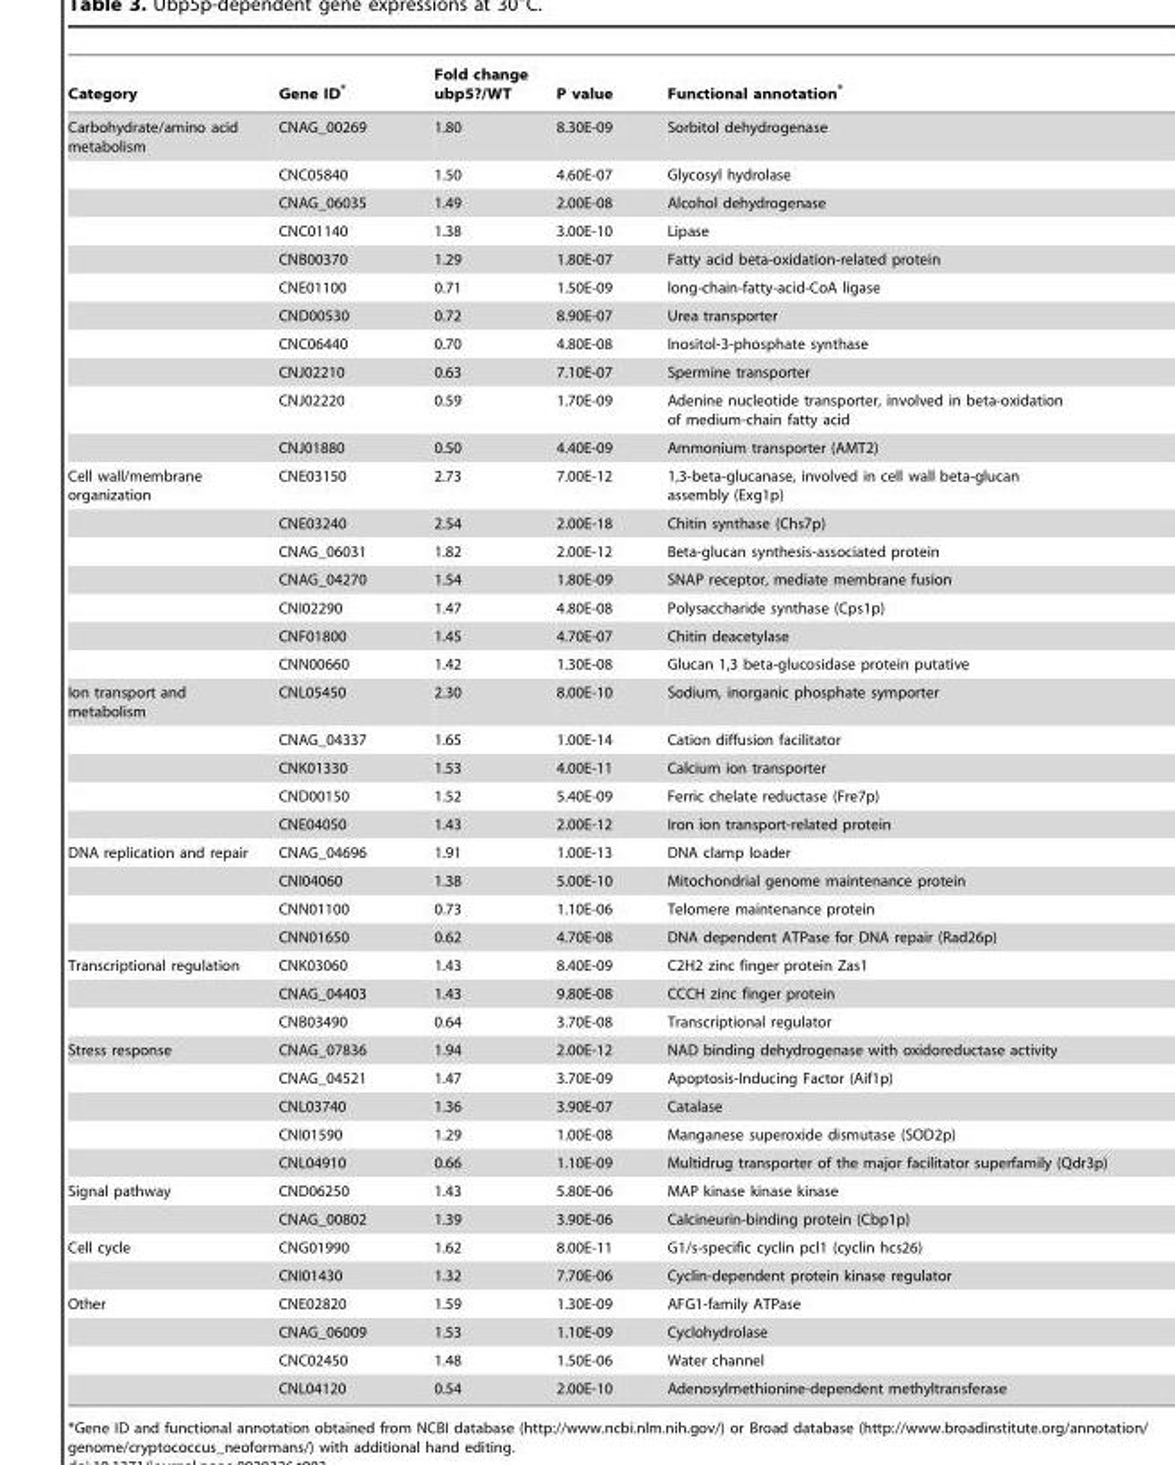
<table><thead><tr><td>Category</td><td>Gene ID*</td><td>Fold change ubp5?/WT</td><td>P value</td><td>Functional annotation*</td></tr></thead><tbody><tr><td rowspan="11">Carbohydrate/amino acid metabolism</td><td>CNAG_00269</td><td>1.80</td><td>8.30E-09</td><td>Sorbitol dehydrogenase</td></tr><tr><td>CNC05840</td><td>1.50</td><td>4.60E-07</td><td>Glycosyl hydrolase</td></tr><tr><td>CNAG_06035</td><td>1.49</td><td>2.00E-08</td><td>Alcohol dehydrogenase</td></tr><tr><td>CNC01140</td><td>1.38</td><td>3.00E-10</td><td>Lipase</td></tr><tr><td>CNB00370</td><td>1.29</td><td>1.80E-07</td><td>Fatty acid beta-oxidation-related protein</td></tr><tr><td>CNE01100</td><td>0.71</td><td>1.50E-09</td><td>long-chain-fatty-acid-CoA ligase</td></tr><tr><td>CND00530</td><td>0.72</td><td>8.90E-07</td><td>Urea transporter</td></tr><tr><td>CNC06440</td><td>0.70</td><td>4.80E-08</td><td>Inositol-3-phosphate synthase</td></tr><tr><td>CNJ02210</td><td>0.63</td><td>7.10E-07</td><td>Spermine transporter</td></tr><tr><td>CNJ02220</td><td>0.59</td><td>1.70E-09</td><td>Adenine nucleotide transporter, involved in beta-oxidation of medium-chain fatty acid</td></tr><tr><td>CNJ01880</td><td>0.50</td><td>4.40E-09</td><td>Ammonium transporter (AMT2)</td></tr><tr><td rowspan="7">Cell wall/membrane organization</td><td>CNE03150</td><td>2.73</td><td>7.00E-12</td><td>1,3-beta-glucanase, involved in cell wall beta-glucan assembly (Exg1p)</td></tr><tr><td>CNE03240</td><td>2.54</td><td>2.00E-18</td><td>Chitin synthase (Chs7p)</td></tr><tr><td>CNAG_06031</td><td>1.82</td><td>2.00E-12</td><td>Beta-glucan synthesis-associated protein</td></tr><tr><td>CNAG_04270</td><td>1.54</td><td>1.80E-09</td><td>SNAP receptor, mediate membrane fusion</td></tr><tr><td>CNI02290</td><td>1.47</td><td>4.80E-08</td><td>Polysaccharide synthase (Cps1p)</td></tr><tr><td>CNF01800</td><td>1.45</td><td>4.70E-07</td><td>Chitin deacetylase</td></tr><tr><td>CNN00660</td><td>1.42</td><td>1.30E-08</td><td>Glucan 1,3 beta-glucosidase protein putative</td></tr><tr><td rowspan="5">Ion transport and metabolism</td><td>CNL05450</td><td>2.30</td><td>8.00E-10</td><td>Sodium, inorganic phosphate symporter</td></tr><tr><td>CNAG_04337</td><td>1.65</td><td>1.00E-14</td><td>Cation diffusion facilitator</td></tr><tr><td>CNK01330</td><td>1.53</td><td>4.00E-11</td><td>Calcium ion transporter</td></tr><tr><td>CND00150</td><td>1.52</td><td>5.40E-09</td><td>Ferric chelate reductase (Fre7p)</td></tr><tr><td>CNE04050</td><td>1.43</td><td>2.00E-12</td><td>Iron ion transport-related protein</td></tr><tr><td rowspan="4">DNA replication and repair</td><td>CNAG_04696</td><td>1.91</td><td>1.00E-13</td><td>DNA clamp loader</td></tr><tr><td>CNI04060</td><td>1.38</td><td>5.00E-10</td><td>Mitochondrial genome maintenance protein</td></tr><tr><td>CNN01100</td><td>0.73</td><td>1.10E-06</td><td>Telomere maintenance protein</td></tr><tr><td>CNN01650</td><td>0.62</td><td>4.70E-08</td><td>DNA dependent ATPase for DNA repair (Rad26p)</td></tr><tr><td rowspan="3">Transcriptional regulation</td><td>CNK03060</td><td>1.43</td><td>8.40E-09</td><td>C2H2 zinc finger protein Zas1</td></tr><tr><td>CNAG_04403</td><td>1.43</td><td>9.80E-08</td><td>CCCH zinc finger protein</td></tr><tr><td>CNB03490</td><td>0.64</td><td>3.70E-08</td><td>Transcriptional regulator</td></tr><tr><td rowspan="5">Stress response</td><td>CNAG_07836</td><td>1.94</td><td>2.00E-12</td><td>NAD binding dehydrogenase with oxidoreductase activity</td></tr><tr><td>CNAG_04521</td><td>1.47</td><td>3.70E-09</td><td>Apoptosis-Inducing Factor (Aif1p)</td></tr><tr><td>CNL03740</td><td>1.36</td><td>3.90E-07</td><td>Catalase</td></tr><tr><td>CNI01590</td><td>1.29</td><td>1.00E-08</td><td>Manganese superoxide dismutase (SOD2p)</td></tr><tr><td>CNL04910</td><td>0.66</td><td>1.10E-09</td><td>Multidrug transporter of the major facilitator superfamily (Qdr3p)</td></tr><tr><td rowspan="2">Signal pathway</td><td>CND06250</td><td>1.43</td><td>5.80E-06</td><td>MAP kinase kinase kinase</td></tr><tr><td>CNAG_00802</td><td>1.39</td><td>3.90E-06</td><td>Calcineurin-binding protein (Cbp1p)</td></tr><tr><td rowspan="2">Cell cycle</td><td>CNG01990</td><td>1.62</td><td>8.00E-11</td><td>G1/s-specific cyclin pcl1 (cyclin hcs26)</td></tr><tr><td>CNI01430</td><td>1.32</td><td>7.70E-06</td><td>Cyclin-dependent protein kinase regulator</td></tr><tr><td rowspan="4">Other</td><td>CNE02820</td><td>1.59</td><td>1.30E-09</td><td>AFG1-family ATPase</td></tr><tr><td>CNAG_06009</td><td>1.53</td><td>1.10E-09</td><td>Cyclohydrolase</td></tr><tr><td>CNC02450</td><td>1.48</td><td>1.50E-06</td><td>Water channel</td></tr><tr><td>CNL04120</td><td>0.54</td><td>2.00E-10</td><td>Adenosylmethionine-dependent methyltransferase</td></tr></tbody></table>